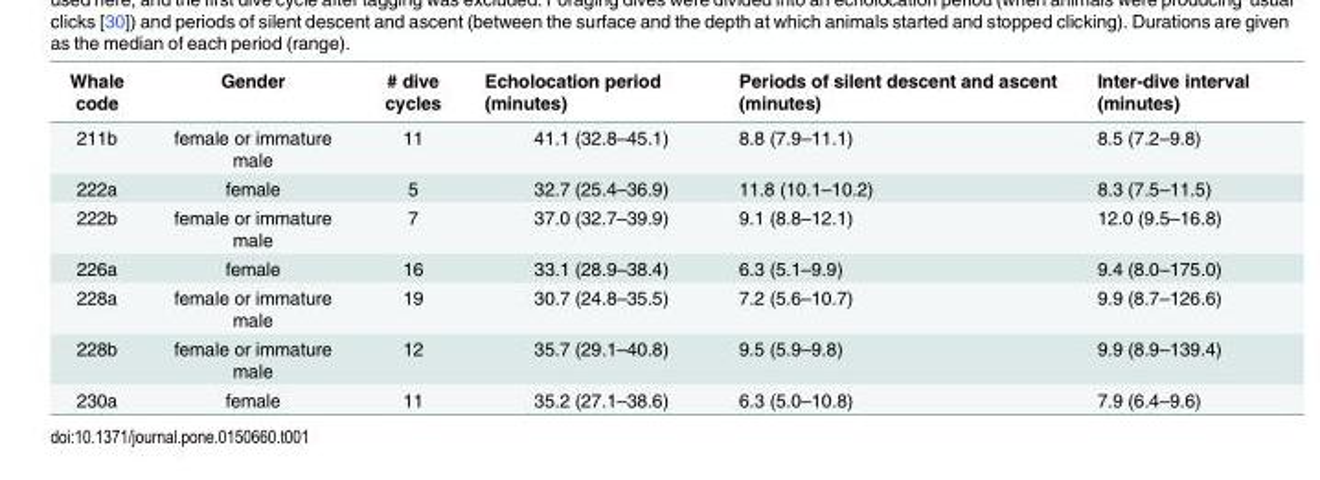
<table><thead><tr><td>Whale code</td><td>Gender</td><td># dive cycles</td><td>Echolocation period (minutes)</td><td>Periods of silent descent and ascent (minutes)</td><td>Inter-dive interval (minutes)</td></tr></thead><tbody><tr><td>211b</td><td>female or immature male</td><td>11</td><td>41.1 (32.8–45.1)</td><td>8.8 (7.9–11.1)</td><td>8.5 (7.2–9.8)</td></tr><tr><td>222a</td><td>female</td><td>5</td><td>32.7 (25.4–36.9)</td><td>11.8 (10.1–10.2)</td><td>8.3 (7.5–11.5)</td></tr><tr><td>222b</td><td>female or immature male</td><td>7</td><td>37.0 (32.7–39.9)</td><td>9.1 (8.8–12.1)</td><td>12.0 (9.5–16.8)</td></tr><tr><td>226a</td><td>female</td><td>16</td><td>33.1 (28.9–38.4)</td><td>6.3 (5.1–9.9)</td><td>9.4 (8.0–175.0)</td></tr><tr><td>228a</td><td>female or immature male</td><td>19</td><td>30.7 (24.8–35.5)</td><td>7.2 (5.6–10.7)</td><td>9.9 (8.7–126.6)</td></tr><tr><td>228b</td><td>female or immature male</td><td>12</td><td>35.7 (29.1–40.8)</td><td>9.5 (5.9–9.8)</td><td>9.9 (8.9–139.4)</td></tr><tr><td>230a</td><td>female</td><td>11</td><td>35.2 (27.1–38.6)</td><td>6.3 (5.0–10.8)</td><td>7.9 (6.4–9.6)</td></tr></tbody></table>